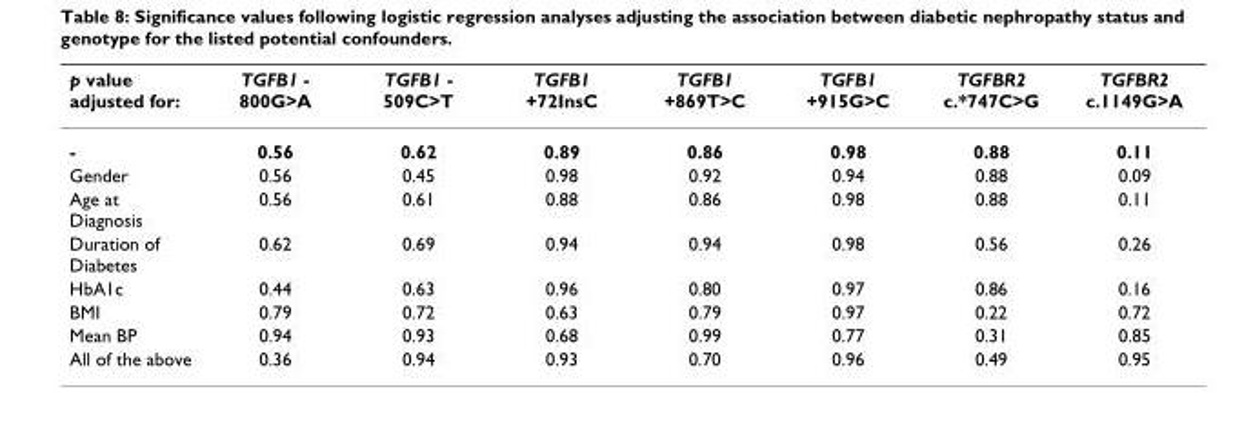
<table><thead><tr><td>p value adjusted for:</td><td>TGFB1 - 800G&gt;A</td><td>TGFB1 - 509C&gt;T</td><td>TGFB1 +72InsC</td><td>TGFB1 +869T&gt;C</td><td>TGFB1 +915G&gt;C</td><td>TGFBR2 c.*747C&gt;G</td><td>TGFBR2 c.1149G&gt;A</td></tr></thead><tbody><tr><td>-</td><td>0.56</td><td>0.62</td><td>0.89</td><td>0.86</td><td>0.98</td><td>0.88</td><td>0.11</td></tr><tr><td>Gender</td><td>0.56</td><td>0.45</td><td>0.98</td><td>0.92</td><td>0.94</td><td>0.88</td><td>0.09</td></tr><tr><td>Age at Diagnosis</td><td>0.56</td><td>0.61</td><td>0.88</td><td>0.86</td><td>0.98</td><td>0.88</td><td>0.11</td></tr><tr><td>Duration of Diabetes</td><td>0.62</td><td>0.69</td><td>0.94</td><td>0.94</td><td>0.98</td><td>0.56</td><td>0.26</td></tr><tr><td>HbA1c</td><td>0.44</td><td>0.63</td><td>0.96</td><td>0.80</td><td>0.97</td><td>0.86</td><td>0.16</td></tr><tr><td>BMI</td><td>0.79</td><td>0.72</td><td>0.63</td><td>0.79</td><td>0.97</td><td>0.22</td><td>0.72</td></tr><tr><td>Mean BP</td><td>0.94</td><td>0.93</td><td>0.68</td><td>0.99</td><td>0.77</td><td>0.31</td><td>0.85</td></tr><tr><td>All of the above</td><td>0.36</td><td>0.94</td><td>0.93</td><td>0.70</td><td>0.96</td><td>0.49</td><td>0.95</td></tr></tbody></table>